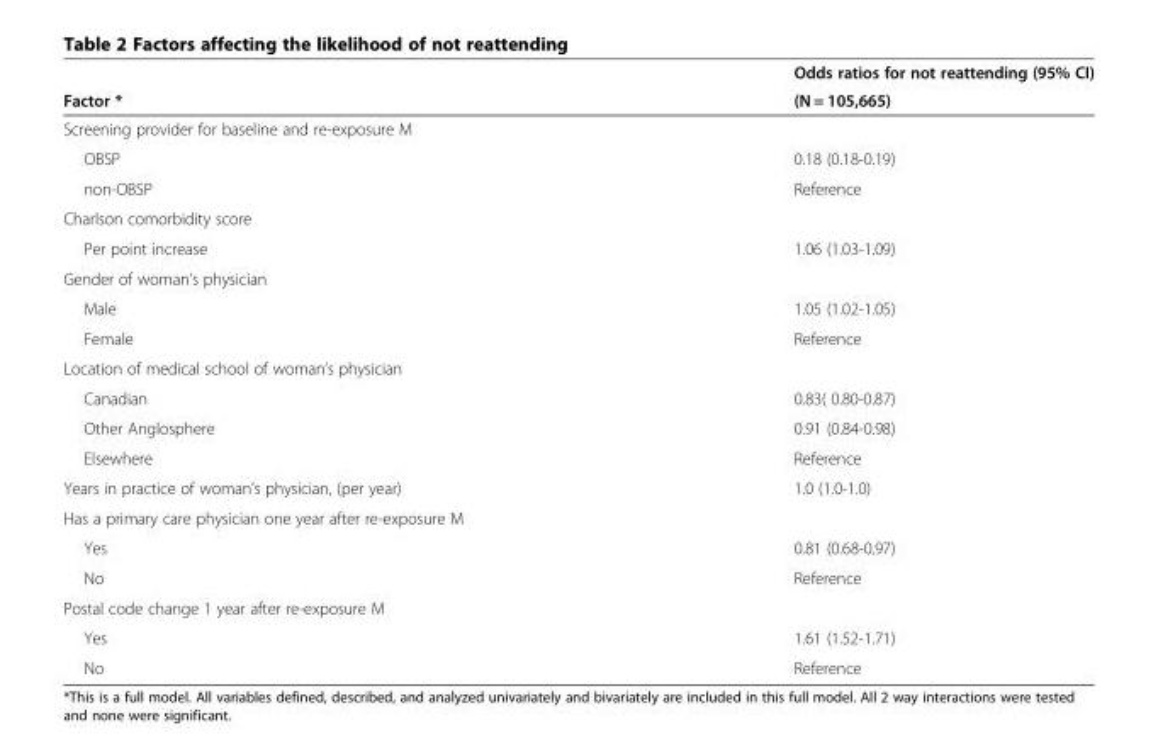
<table><thead><tr><td rowspan="2">Factor *</td><td rowspan="2">Odds ratios for not reattending (95% CI) (N = 105,665)</td></tr><tr></tr></thead><tbody><tr><td colspan="2">Screening provider for baseline and re-exposure M</td></tr><tr><td>OBSP</td><td>0.18 (0.18-0.19)</td></tr><tr><td>non-OBSP</td><td>Reference</td></tr><tr><td colspan="2">Charlson comorbidity score</td></tr><tr><td>Per point increase</td><td>1.06 (1.03-1.09)</td></tr><tr><td colspan="2">Gender of woman’s physician</td></tr><tr><td>Male</td><td>1.05 (1.02-1.05)</td></tr><tr><td>Female</td><td>Reference</td></tr><tr><td colspan="2">Location of medical school of woman’s physician</td></tr><tr><td>Canadian</td><td>0.83( 0.80-0.87)</td></tr><tr><td>Other Anglosphere</td><td>0.91 (0.84-0.98)</td></tr><tr><td>Elsewhere</td><td>Reference</td></tr><tr><td>Years in practice of woman’s physician, (per year)</td><td>1.0 (1.0-1.0)</td></tr><tr><td colspan="2">Has a primary care physician one year after re-exposure M</td></tr><tr><td>Yes</td><td>0.81 (0.68-0.97)</td></tr><tr><td>No</td><td>Reference</td></tr><tr><td colspan="2">Postal code change 1 year after re-exposure M</td></tr><tr><td>Yes</td><td>1.61 (1.52-1.71)</td></tr><tr><td>No</td><td>Reference</td></tr></tbody></table>